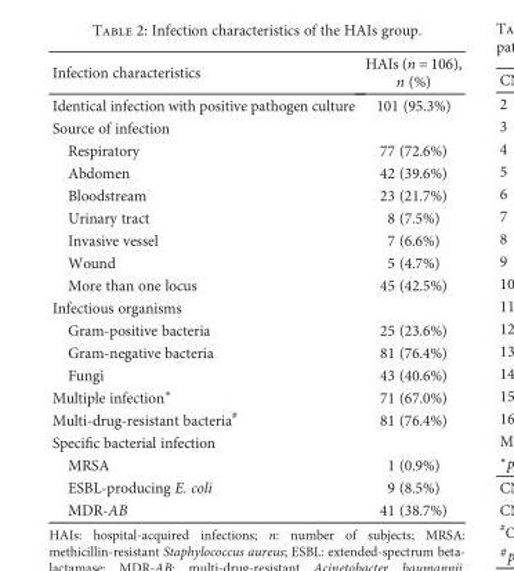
<table><thead><tr><td>Infection characteristics</td><td>HAIs (n = 106), n (%)</td></tr></thead><tbody><tr><td>Identical infection with positive pathogen culture</td><td>101 (95.3%)</td></tr><tr><td colspan="2">Source of infection</td></tr><tr><td>Respiratory</td><td>77 (72.6%)</td></tr><tr><td>Abdomen</td><td>42 (39.6%)</td></tr><tr><td>Bloodstream</td><td>23 (21.7%)</td></tr><tr><td>Urinary tract</td><td>8 (7.5%)</td></tr><tr><td>Invasive vessel</td><td>7 (6.6%)</td></tr><tr><td>Wound</td><td>5 (4.7%)</td></tr><tr><td>More than one locus</td><td>45 (42.5%)</td></tr><tr><td colspan="2">Infectious organisms</td></tr><tr><td>Gram-positive bacteria</td><td>25 (23.6%)</td></tr><tr><td>Gram-negative bacteria</td><td>81 (76.4%)</td></tr><tr><td>Fungi</td><td>43 (40.6%)</td></tr><tr><td>Multiple infection∗</td><td>71 (67.0%)</td></tr><tr><td>Multi-drug-resistant bacteria<sup>#</sup></td><td>81 (76.4%)</td></tr><tr><td colspan="2">Specific bacterial infection</td></tr><tr><td>MRSA</td><td>1 (0.9%)</td></tr><tr><td>ESBL-producing E. coli</td><td>9 (8.5%)</td></tr><tr><td>MDR-AB</td><td>41 (38.7%)</td></tr></tbody></table>